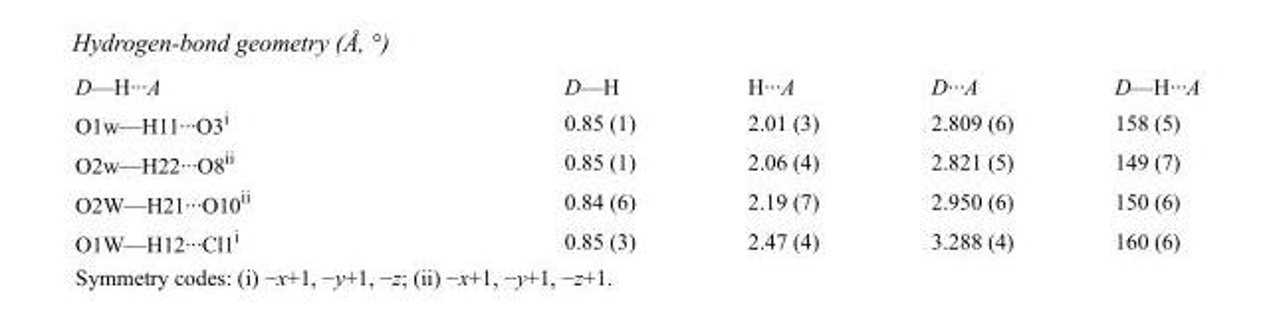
<table><tbody><tr><td>D—H···A</td><td>D—H</td><td>H···A</td><td>D···A</td><td>D—H···A</td></tr><tr><td>O1w—H11···O3<sup>i</sup></td><td>0.85 (1)</td><td>2.01 (3)</td><td>2.809 (6)</td><td>158 (5)</td></tr><tr><td>O2w—H22···O8<sup>ii</sup></td><td>0.85 (1)</td><td>2.06 (4)</td><td>2.821 (5)</td><td>149 (7)</td></tr><tr><td>O2W—H21···O10<sup>ii</sup></td><td>0.84 (6)</td><td>2.19 (7)</td><td>2.950 (6)</td><td>150 (6)</td></tr><tr><td>O1W—H12···Cl1<sup>i</sup></td><td>0.85 (3)</td><td>2.47 (4)</td><td>3.288 (4)</td><td>160 (6)</td></tr></tbody></table>